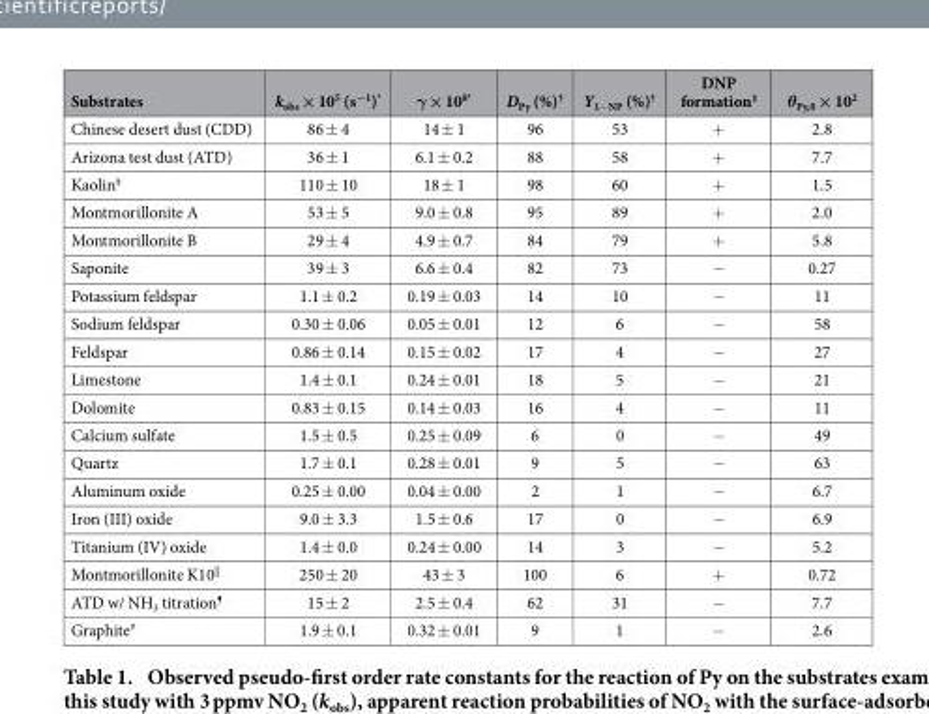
<table><thead><tr><td>Substrates</td><td>k<sub>obs</sub> × 10<sup>5</sup> (s<sup>−1</sup>)*</td><td>γ × 10<sup>8</sup>*</td><td>D<sub>Py</sub> (%)†</td><td>Y<sub>1−NP</sub> (%)†</td><td>DNP formation‡</td><td>θ<sub>Py,0</sub> × 10<sup>2</sup></td></tr></thead><tbody><tr><td>Chinese desert dust (CDD)</td><td>86 ± 4</td><td>14 ± 1</td><td>96</td><td>53</td><td>+</td><td>2.8</td></tr><tr><td>Arizona test dust (ATD)</td><td>36 ± 1</td><td>6.1 ± 0.2</td><td>88</td><td>58</td><td>+</td><td>7.7</td></tr><tr><td>Kaolin§</td><td>110 ± 10</td><td>18 ± 1</td><td>98</td><td>60</td><td>+</td><td>1.5</td></tr><tr><td>Montmorillonite A</td><td>53 ± 5</td><td>9.0 ± 0.8</td><td>95</td><td>89</td><td>+</td><td>2.0</td></tr><tr><td>Montmorillonite B</td><td>29 ± 4</td><td>4.9 ± 0.7</td><td>84</td><td>79</td><td>+</td><td>5.8</td></tr><tr><td>Saponite</td><td>39 ± 3</td><td>6.6 ± 0.4</td><td>82</td><td>73</td><td>−</td><td>0.27</td></tr><tr><td>Potassium feldspar</td><td>1.1 ± 0.2</td><td>0.19 ± 0.03</td><td>14</td><td>10</td><td>−</td><td>11</td></tr><tr><td>Sodium feldspar</td><td>0.30 ± 0.06</td><td>0.05 ± 0.01</td><td>12</td><td>6</td><td>−</td><td>58</td></tr><tr><td>Feldspar</td><td>0.86 ± 0.14</td><td>0.15 ± 0.02</td><td>17</td><td>4</td><td>−</td><td>27</td></tr><tr><td>Limestone</td><td>1.4 ± 0.1</td><td>0.24 ± 0.01</td><td>18</td><td>5</td><td>−</td><td>21</td></tr><tr><td>Dolomite</td><td>0.83 ± 0.15</td><td>0.14 ± 0.03</td><td>16</td><td>4</td><td>−</td><td>11</td></tr><tr><td>Calcium sulfate</td><td>1.5 ± 0.5</td><td>0.25 ± 0.09</td><td>6</td><td>0</td><td>−</td><td>49</td></tr><tr><td>Quartz</td><td>1.7 ± 0.1</td><td>0.28 ± 0.01</td><td>9</td><td>5</td><td>−</td><td>63</td></tr><tr><td>Aluminum oxide</td><td>0.25 ± 0.00</td><td>0.04 ± 0.00</td><td>2</td><td>1</td><td>−</td><td>6.7</td></tr><tr><td>Iron (III) oxide</td><td>9.0 ± 3.3</td><td>1.5 ± 0.6</td><td>17</td><td>0</td><td>−</td><td>6.9</td></tr><tr><td>Titanium (IV) oxide</td><td>1.4 ± 0.0</td><td>0.24 ± 0.00</td><td>14</td><td>3</td><td>−</td><td>5.2</td></tr><tr><td>Montmorillonite K10||</td><td>250 ± 20</td><td>43 ± 3</td><td>100</td><td>6</td><td>+</td><td>0.72</td></tr><tr><td>ATD w/ NH<sub>3</sub> titration¶</td><td>15 ± 2</td><td>2.5 ± 0.4</td><td>62</td><td>31</td><td>−</td><td>7.7</td></tr><tr><td>Graphite#</td><td>1.9 ± 0.1</td><td>0.32 ± 0.01</td><td>9</td><td>1</td><td>−</td><td>2.6</td></tr></tbody></table>